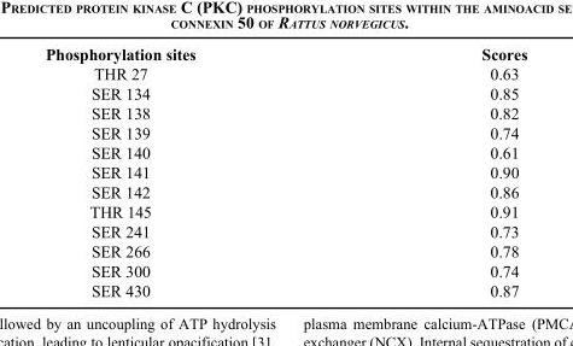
<table><thead><tr><td>Phosphorylation sites</td><td>Scores</td></tr></thead><tbody><tr><td>THR 27</td><td>0.63</td></tr><tr><td>SER 134</td><td>0.85</td></tr><tr><td>SER 138</td><td>0.82</td></tr><tr><td>SER 139</td><td>0.74</td></tr><tr><td>SER 140</td><td>0.61</td></tr><tr><td>SER 141</td><td>0.90</td></tr><tr><td>SER 142</td><td>0.86</td></tr><tr><td>THR 145</td><td>0.91</td></tr><tr><td>SER 241</td><td>0.73</td></tr><tr><td>SER 266</td><td>0.78</td></tr><tr><td>SER 300</td><td>0.74</td></tr><tr><td>SER 430</td><td>0.87</td></tr></tbody></table>